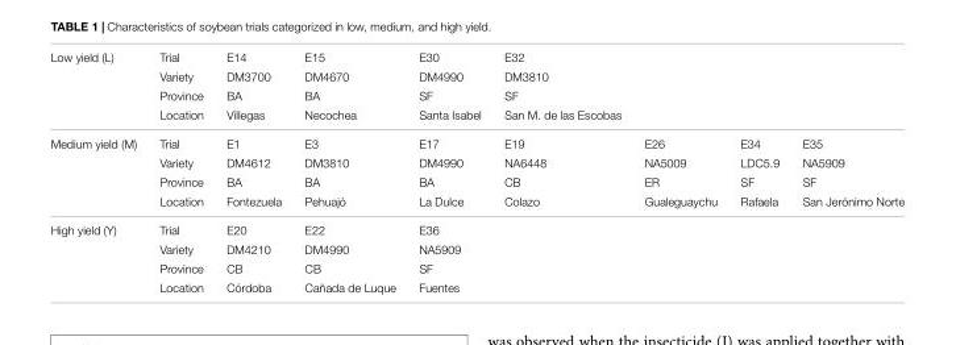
<table><tbody><tr><td rowspan="4">Low yield (L)</td><td>Trial</td><td>E14</td><td>E15</td><td>E30</td><td>E32</td><td></td><td></td><td></td></tr><tr><td>Variety</td><td>DM3700</td><td>DM4670</td><td>DM4990</td><td>DM3810</td><td></td><td></td><td></td></tr><tr><td>Province</td><td>BA</td><td>BA</td><td>SF</td><td>SF</td><td></td><td></td><td></td></tr><tr><td>Location</td><td>Villegas</td><td>Necochea</td><td>Santa Isabel</td><td>San M. de las Escobas</td><td></td><td></td><td></td></tr><tr><td rowspan="4">Medium yield (M)</td><td>Trial</td><td>E1</td><td>E3</td><td>E17</td><td>E19</td><td>E26</td><td>E34</td><td>E35</td></tr><tr><td>Variety</td><td>DM4612</td><td>DM3810</td><td>DM4990</td><td>NA6448</td><td>NA5009</td><td>LDC5.9</td><td>NA5909</td></tr><tr><td>Province</td><td>BA</td><td>BA</td><td>BA</td><td>CB</td><td>ER</td><td>SF</td><td>SF</td></tr><tr><td>Location</td><td>Fontezuela</td><td>Pehuajó</td><td>La Dulce</td><td>Colazo</td><td>Gualeguaychu</td><td>Rafaela</td><td>San Jerónimo Norte</td></tr><tr><td rowspan="4">High yield (Y)</td><td>Trial</td><td>E20</td><td>E22</td><td>E36</td><td></td><td></td><td></td><td></td></tr><tr><td>Variety</td><td>DM4210</td><td>DM4990</td><td>NA5909</td><td></td><td></td><td></td><td></td></tr><tr><td>Province</td><td>CB</td><td>CB</td><td>SF</td><td></td><td></td><td></td><td></td></tr><tr><td>Location</td><td>Córdoba</td><td>Cañada de Luque</td><td>Fuentes</td><td></td><td></td><td></td><td></td></tr></tbody></table>